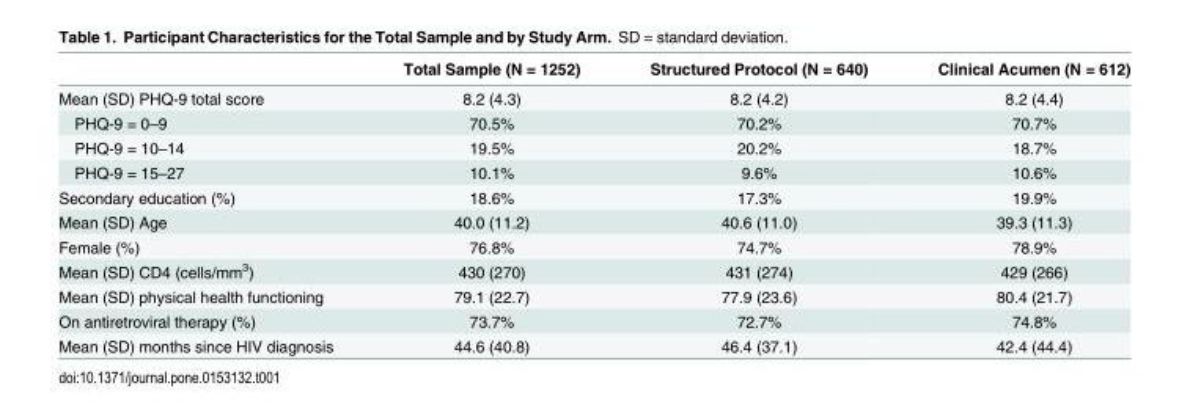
<table><thead><tr><td></td><td>Total Sample (N = 1252)</td><td>Structured Protocol (N = 640)</td><td>Clinical Acumen (N = 612)</td></tr></thead><tbody><tr><td>Mean (SD) PHQ-9 total score</td><td>8.2 (4.3)</td><td>8.2 (4.2)</td><td>8.2 (4.4)</td></tr><tr><td>PHQ-9 = 0–9</td><td>70.5%</td><td>70.2%</td><td>70.7%</td></tr><tr><td>PHQ-9 = 10–14</td><td>19.5%</td><td>20.2%</td><td>18.7%</td></tr><tr><td>PHQ-9 = 15–27</td><td>10.1%</td><td>9.6%</td><td>10.6%</td></tr><tr><td>Secondary education (%)</td><td>18.6%</td><td>17.3%</td><td>19.9%</td></tr><tr><td>Mean (SD) Age</td><td>40.0 (11.2)</td><td>40.6 (11.0)</td><td>39.3 (11.3)</td></tr><tr><td>Female (%)</td><td>76.8%</td><td>74.7%</td><td>78.9%</td></tr><tr><td>Mean (SD) CD4 (cells/mm<sup>3</sup>)</td><td>430 (270)</td><td>431 (274)</td><td>429 (266)</td></tr><tr><td>Mean (SD) physical health functioning</td><td>79.1 (22.7)</td><td>77.9 (23.6)</td><td>80.4 (21.7)</td></tr><tr><td>On antiretroviral therapy (%)</td><td>73.7%</td><td>72.7%</td><td>74.8%</td></tr><tr><td>Mean (SD) months since HIV diagnosis</td><td>44.6 (40.8)</td><td>46.4 (37.1)</td><td>42.4 (44.4)</td></tr></tbody></table>